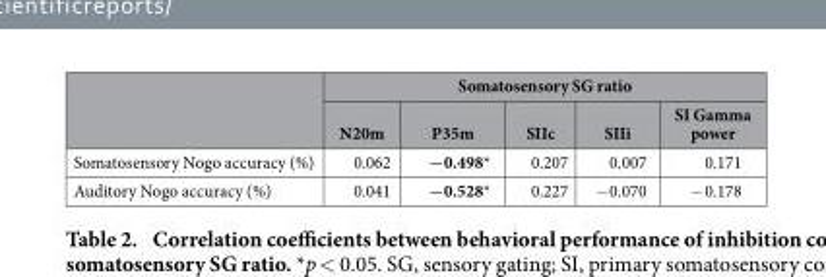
<table><thead><tr><td rowspan="2"></td><td colspan="5">Somatosensory SG ratio</td></tr><tr><td>N20m</td><td>P35m</td><td>SIIc</td><td>SIIi</td><td>SI Gamma power</td></tr></thead><tbody><tr><td>Somatosensory Nogo accuracy (%)</td><td>0.062</td><td>−0.498*</td><td>0.207</td><td>0.007</td><td>0.171</td></tr><tr><td>Auditory Nogo accuracy (%)</td><td>0.041</td><td>−0.528*</td><td>0.227</td><td>− 0.070</td><td>− 0.178</td></tr></tbody></table>